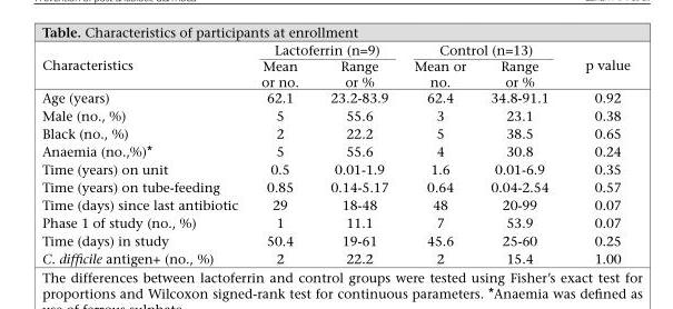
<table><thead><tr><td rowspan="2">Characteristics</td><td colspan="2">Lactoferrin (n=9)</td><td colspan="2">Control (n=13)</td><td rowspan="2">p value</td></tr><tr><td>Mean or no.</td><td>Range or %</td><td>Mean or no.</td><td>Range or %</td></tr></thead><tbody><tr><td>Age (years)</td><td>62.1</td><td>23.2-83.9</td><td>62.4</td><td>34.8-91.1</td><td>0.92</td></tr><tr><td>Male (no., %)</td><td>5</td><td>55.6</td><td>3</td><td>23.1</td><td>0.38</td></tr><tr><td>Black (no., %)</td><td>2</td><td>22.2</td><td>5</td><td>38.5</td><td>0.65</td></tr><tr><td>Anaemia (no.,%)*</td><td>5</td><td>55.6</td><td>4</td><td>30.8</td><td>0.24</td></tr><tr><td>Time (years) on unit</td><td>0.5</td><td>0.01-1.9</td><td>1.6</td><td>0.01-6.9</td><td>0.35</td></tr><tr><td>Time (years) on tube-feeding</td><td>0.85</td><td>0.14-5.17</td><td>0.64</td><td>0.04-2.54</td><td>0.57</td></tr><tr><td>Time (days) since last antibiotic</td><td>29</td><td>18-48</td><td>48</td><td>20-99</td><td>0.07</td></tr><tr><td>Phase 1 of study (no., %)</td><td>1</td><td>11.1</td><td>7</td><td>53.9</td><td>0.07</td></tr><tr><td>Time (days) in study</td><td>50.4</td><td>19-61</td><td>45.6</td><td>25-60</td><td>0.25</td></tr><tr><td>C. difficile antigen+ (no., %)</td><td>2</td><td>22.2</td><td>2</td><td>15.4</td><td>1.00</td></tr></tbody></table>